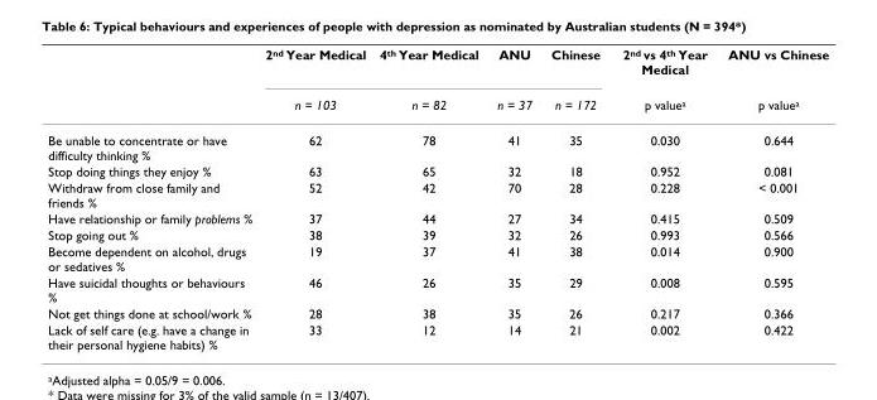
<table><thead><tr><td rowspan="2"></td><td rowspan="2">2<sup>nd</sup> Year Medical n = 103</td><td rowspan="2">4<sup>th</sup> Year Medical n = 82</td><td rowspan="2">ANU n = 37</td><td rowspan="2">Chinese n = 172</td><td rowspan="2">2<sup>nd</sup> vs 4<sup>th</sup> Year Medical p value<sup>a</sup></td><td rowspan="2">ANU vs Chinese p value<sup>a</sup></td></tr><tr></tr></thead><tbody><tr><td>Be unable to concentrate or have difficulty thinking %</td><td>62</td><td>78</td><td>41</td><td>35</td><td>0.030</td><td>0.644</td></tr><tr><td>Stop doing things they enjoy %</td><td>63</td><td>65</td><td>32</td><td>18</td><td>0.952</td><td>0.081</td></tr><tr><td>Withdraw from close family and friends %</td><td>52</td><td>42</td><td>70</td><td>28</td><td>0.228</td><td>&lt; 0.001</td></tr><tr><td>Have relationship or family problems %</td><td>37</td><td>44</td><td>27</td><td>34</td><td>0.415</td><td>0.509</td></tr><tr><td>Stop going out %</td><td>38</td><td>39</td><td>32</td><td>26</td><td>0.993</td><td>0.566</td></tr><tr><td>Become dependent on alcohol, drugs or sedatives %</td><td>19</td><td>37</td><td>41</td><td>38</td><td>0.014</td><td>0.900</td></tr><tr><td>Have suicidal thoughts or behaviours %</td><td>46</td><td>26</td><td>35</td><td>29</td><td>0.008</td><td>0.595</td></tr><tr><td>Not get things done at school/work %</td><td>28</td><td>38</td><td>35</td><td>26</td><td>0.217</td><td>0.366</td></tr><tr><td>Lack of self care (e.g. have a change in their personal hygiene habits) %</td><td>33</td><td>12</td><td>14</td><td>21</td><td>0.002</td><td>0.422</td></tr></tbody></table>